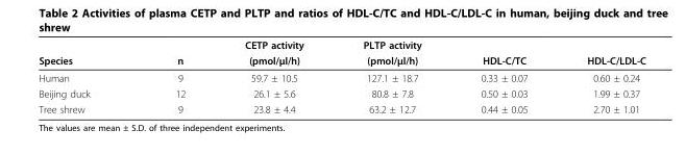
<table><thead><tr><td rowspan="2">Species</td><td rowspan="2">n</td><td rowspan="2">CETP activity (pmol/μl/h)</td><td rowspan="2">PLTP activity (pmol/μl/h)</td><td rowspan="2">HDL-C/TC</td><td rowspan="2">HDL-C/LDL-C</td></tr><tr></tr></thead><tbody><tr><td>Human</td><td>9</td><td>59.7 ± 10.5</td><td>127.1 ± 18.7</td><td>0.33 ± 0.07</td><td>0.60 ± 0.24</td></tr><tr><td>Beijing duck</td><td>12</td><td>26.1 ± 5.6</td><td>80.8 ± 7.8</td><td>0.50 ± 0.03</td><td>1.99 ± 0.37</td></tr><tr><td>Tree shrew</td><td>9</td><td>23.8 ± 4.4</td><td>63.2 ± 12.7</td><td>0.44 ± 0.05</td><td>2.70 ± 1.01</td></tr></tbody></table>